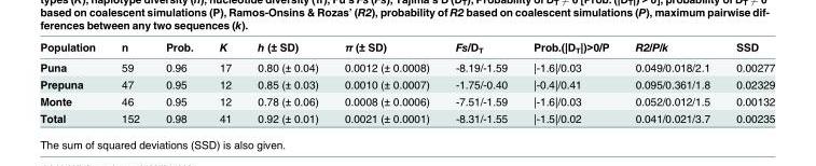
<table><thead><tr><td>Population</td><td>n</td><td>Prob.</td><td>K</td><td>h (± SD)</td><td>π (± SD)</td><td>Fs/D<sub>T</sub></td><td>Prob.(|D<sub>T</sub>|)&gt;0/P</td><td>R2/P/k</td><td>SSD</td></tr></thead><tbody><tr><td>Puna</td><td>59</td><td>0.96</td><td>17</td><td>0.80 (± 0.04)</td><td>0.0012 (± 0.0008)</td><td>-8.19/-1.59</td><td>|-1.6|/0.03</td><td>0.049/0.018/2.1</td><td>0.00277</td></tr><tr><td>Prepuna</td><td>47</td><td>0.95</td><td>12</td><td>0.85 (± 0.03)</td><td>0.0010 (± 0.0007)</td><td>-1.75/-0.40</td><td>|-0.4|/0.41</td><td>0.095/0.361/1.8</td><td>0.02329</td></tr><tr><td>Monte</td><td>46</td><td>0.95</td><td>12</td><td>0.78 (± 0.06)</td><td>0.0008 (± 0.0006)</td><td>-7.51/-1.59</td><td>|-1.6|/0.03</td><td>0.052/0.012/1.5</td><td>0.00132</td></tr><tr><td>Total</td><td>152</td><td>0.98</td><td>41</td><td>0.92 (± 0.01)</td><td>0.0021 (± 0.0001)</td><td>-8.31/-1.55</td><td>|-1.5|/0.02</td><td>0.041/0.021/3.7</td><td>0.00235</td></tr></tbody></table>